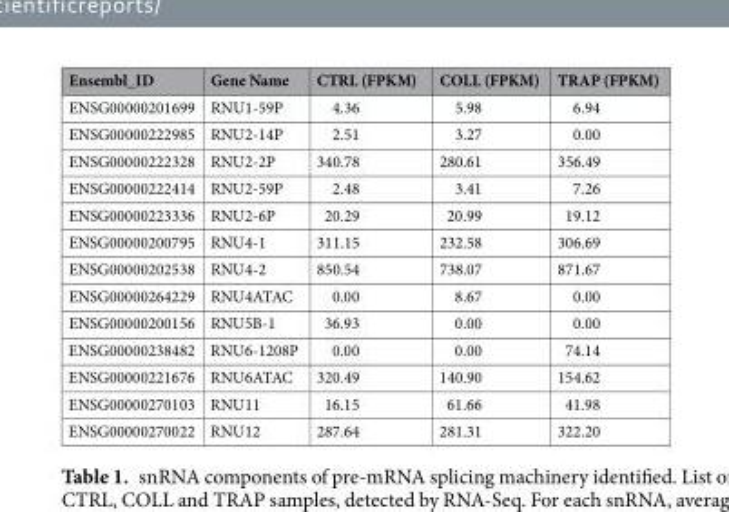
<table><thead><tr><td>Ensembl_ID</td><td>Gene Name</td><td>CTRL (FPKM)</td><td>COLL (FPKM)</td><td>TRAP (FPKM)</td></tr></thead><tbody><tr><td>ENSG00000201699</td><td>RNU1-59P</td><td>4.36</td><td>5.98</td><td>6.94</td></tr><tr><td>ENSG00000222985</td><td>RNU2-14P</td><td>2.51</td><td>3.27</td><td>0.00</td></tr><tr><td>ENSG00000222328</td><td>RNU2-2P</td><td>340.78</td><td>280.61</td><td>356.49</td></tr><tr><td>ENSG00000222414</td><td>RNU2-59P</td><td>2.48</td><td>3.41</td><td>7.26</td></tr><tr><td>ENSG00000223336</td><td>RNU2-6P</td><td>20.29</td><td>20.99</td><td>19.12</td></tr><tr><td>ENSG00000200795</td><td>RNU4-1</td><td>311.15</td><td>232.58</td><td>306.69</td></tr><tr><td>ENSG00000202538</td><td>RNU4-2</td><td>850.54</td><td>738.07</td><td>871.67</td></tr><tr><td>ENSG00000264229</td><td>RNU4ATAC</td><td>0.00</td><td>8.67</td><td>0.00</td></tr><tr><td>ENSG00000200156</td><td>RNU5B-1</td><td>36.93</td><td>0.00</td><td>0.00</td></tr><tr><td>ENSG00000238482</td><td>RNU6-1208P</td><td>0.00</td><td>0.00</td><td>74.14</td></tr><tr><td>ENSG00000221676</td><td>RNU6ATAC</td><td>320.49</td><td>140.90</td><td>154.62</td></tr><tr><td>ENSG00000270103</td><td>RNU11</td><td>16.15</td><td>61.66</td><td>41.98</td></tr><tr><td>ENSG00000270022</td><td>RNU12</td><td>287.64</td><td>281.31</td><td>322.20</td></tr></tbody></table>